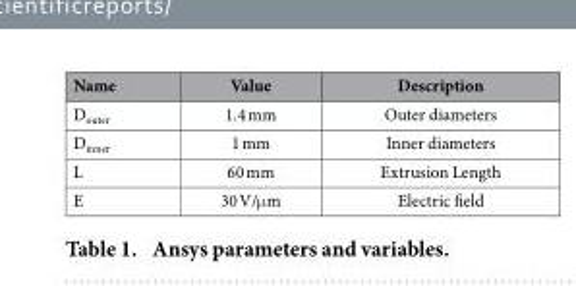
<table><thead><tr><td>Name</td><td>Value</td><td>Description</td></tr></thead><tbody><tr><td>D<sub>outer</sub></td><td>1.4 mm</td><td>Outer diameters</td></tr><tr><td>D<sub>inner</sub></td><td>1 mm</td><td>Inner diameters</td></tr><tr><td>L</td><td>60 mm</td><td>Extrusion Length</td></tr><tr><td>E</td><td>30 V/μ m</td><td>Electric field</td></tr></tbody></table>